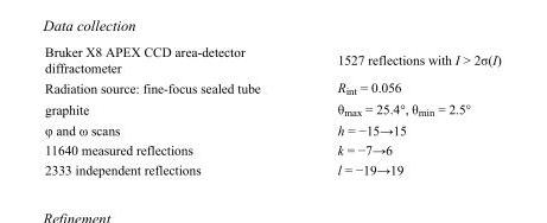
<table><tbody><tr><td>Bruker X8 APEX CCD area-detector diffractometer</td><td>1527 reflections with I &gt; 2σ(I)</td></tr><tr><td>Radiation source: fine-focus sealed tube</td><td>R<sub>int</sub> = 0.056</td></tr><tr><td>graphite</td><td>θ<sub>max</sub> = 25.4°, θ<sub>min</sub> = 2.5°</td></tr><tr><td>φ and ω scans</td><td>h = −15→15</td></tr><tr><td>11640 measured reflections</td><td>k = −7→6</td></tr><tr><td>2333 independent reflections</td><td>l = −19→19</td></tr></tbody></table>